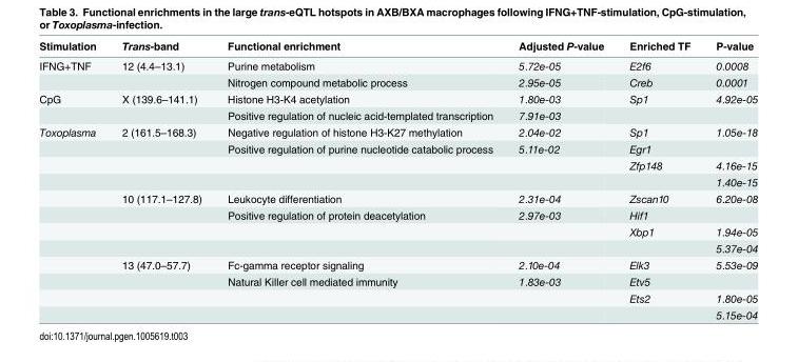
<table><thead><tr><td>Stimulation</td><td>Trans-band</td><td>Functional enrichment</td><td>Adjusted P-value</td><td>Enriched TF</td><td>P-value</td></tr></thead><tbody><tr><td rowspan="2">IFNG+TNF</td><td>12 (4.4–13.1)</td><td>Purine metabolism</td><td>5.72e-05</td><td>E2f6</td><td>0.0008</td></tr><tr><td></td><td>Nitrogen compound metabolic process</td><td>2.95e-05</td><td>Creb</td><td>0.0001</td></tr><tr><td rowspan="2">CpG</td><td>X (139.6–141.1)</td><td>Histone H3-K4 acetylation</td><td>1.80e-03</td><td>Sp1</td><td>4.92e-05</td></tr><tr><td></td><td>Positive regulation of nucleic acid-templated transcription</td><td>7.91e-03</td><td></td><td></td></tr><tr><td rowspan="12">Toxoplasma</td><td>2 (161.5–168.3)</td><td>Negative regulation of histone H3-K27 methylation</td><td>2.04e-02</td><td>Sp1</td><td>1.05e-18</td></tr><tr><td></td><td>Positive regulation of purine nucleotide catabolic process</td><td>5.11e-02</td><td>Egr1</td><td></td></tr><tr><td></td><td></td><td></td><td>Zfp148</td><td>4.16e-15</td></tr><tr><td></td><td></td><td></td><td></td><td>1.40e-15</td></tr><tr><td>10 (117.1–127.8)</td><td>Leukocyte differentiation</td><td>2.31e-04</td><td>Zscan10</td><td>6.20e-08</td></tr><tr><td></td><td>Positive regulation of protein deacetylation</td><td>2.97e-03</td><td>Hif1</td><td></td></tr><tr><td></td><td></td><td></td><td>Xbp1</td><td>1.94e-05</td></tr><tr><td></td><td></td><td></td><td></td><td>5.37e-04</td></tr><tr><td>13 (47.0–57.7)</td><td>Fc-gamma receptor signaling</td><td>2.10e-04</td><td>Elk3</td><td>5.53e-09</td></tr><tr><td></td><td>Natural Killer cell mediated immunity</td><td>1.83e-03</td><td>Etv5</td><td></td></tr><tr><td></td><td></td><td></td><td>Ets2</td><td>1.80e-05</td></tr><tr><td></td><td></td><td></td><td></td><td>5.15e-04</td></tr></tbody></table>